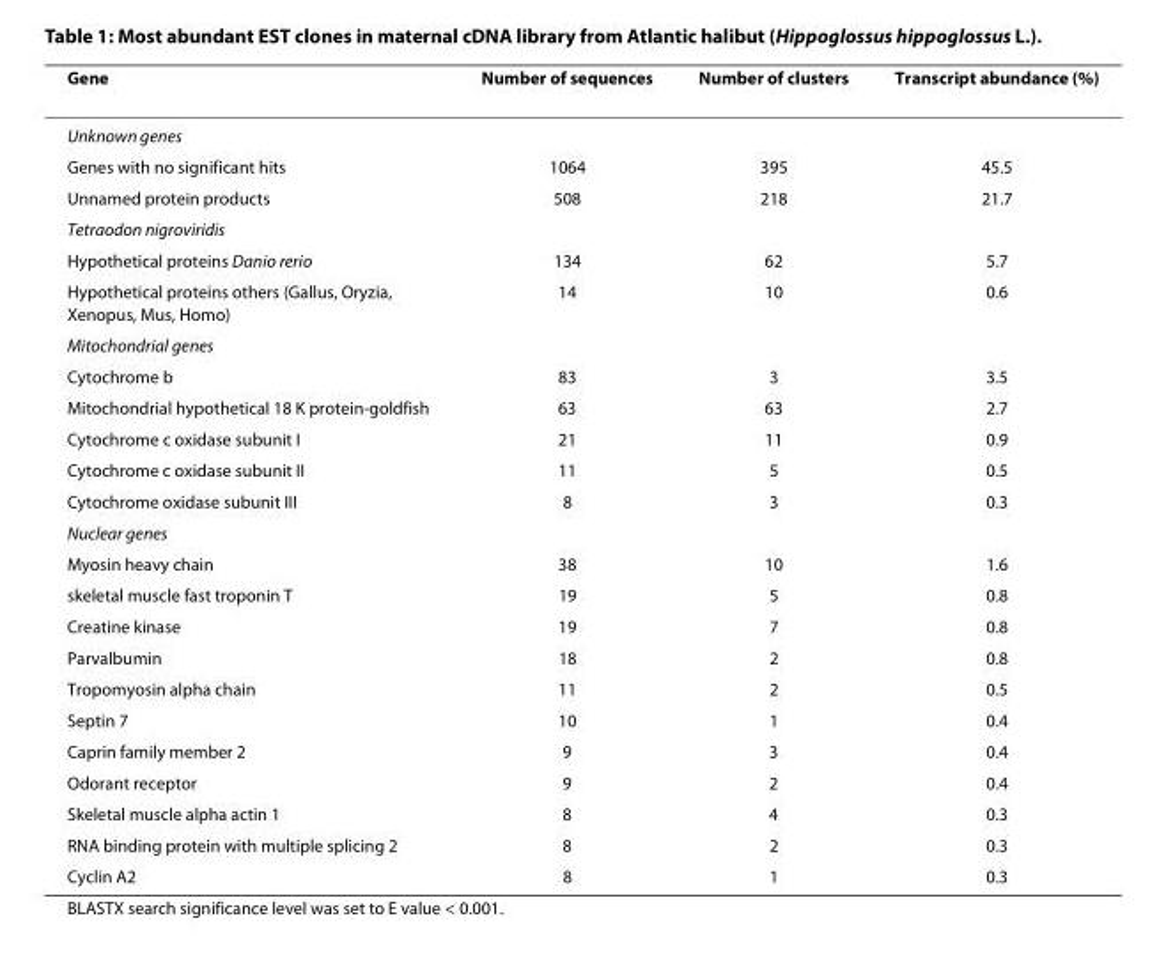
<table><thead><tr><td>Gene</td><td>Number of sequences</td><td>Number of clusters</td><td>Transcript abundance (%)</td></tr></thead><tbody><tr><td colspan="4">Unknown genes</td></tr><tr><td>Genes with no significant hits</td><td>1064</td><td>395</td><td>45.5</td></tr><tr><td>Unnamed protein products</td><td>508</td><td>218</td><td>21.7</td></tr><tr><td colspan="4">Tetraodon nigroviridis</td></tr><tr><td>Hypothetical proteins Danio rerio</td><td>134</td><td>62</td><td>5.7</td></tr><tr><td>Hypothetical proteins others (Gallus, Oryzia, Xenopus, Mus, Homo)</td><td>14</td><td>10</td><td>0.6</td></tr><tr><td colspan="4">Mitochondrial genes</td></tr><tr><td>Cytochrome b</td><td>83</td><td>3</td><td>3.5</td></tr><tr><td>Mitochondrial hypothetical 18 K protein-goldfish</td><td>63</td><td>63</td><td>2.7</td></tr><tr><td>Cytochrome c oxidase subunit I</td><td>21</td><td>11</td><td>0.9</td></tr><tr><td>Cytochrome c oxidase subunit II</td><td>11</td><td>5</td><td>0.5</td></tr><tr><td>Cytochrome oxidase subunit III</td><td>8</td><td>3</td><td>0.3</td></tr><tr><td colspan="4">Nuclear genes</td></tr><tr><td>Myosin heavy chain</td><td>38</td><td>10</td><td>1.6</td></tr><tr><td>skeletal muscle fast troponin T</td><td>19</td><td>5</td><td>0.8</td></tr><tr><td>Creatine kinase</td><td>19</td><td>7</td><td>0.8</td></tr><tr><td>Parvalbumin</td><td>18</td><td>2</td><td>0.8</td></tr><tr><td>Tropomyosin alpha chain</td><td>11</td><td>2</td><td>0.5</td></tr><tr><td>Septin 7</td><td>10</td><td>1</td><td>0.4</td></tr><tr><td>Caprin family member 2</td><td>9</td><td>3</td><td>0.4</td></tr><tr><td>Odorant receptor</td><td>9</td><td>2</td><td>0.4</td></tr><tr><td>Skeletal muscle alpha actin 1</td><td>8</td><td>4</td><td>0.3</td></tr><tr><td>RNA binding protein with multiple splicing 2</td><td>8</td><td>2</td><td>0.3</td></tr><tr><td>Cyclin A2</td><td>8</td><td>1</td><td>0.3</td></tr></tbody></table>